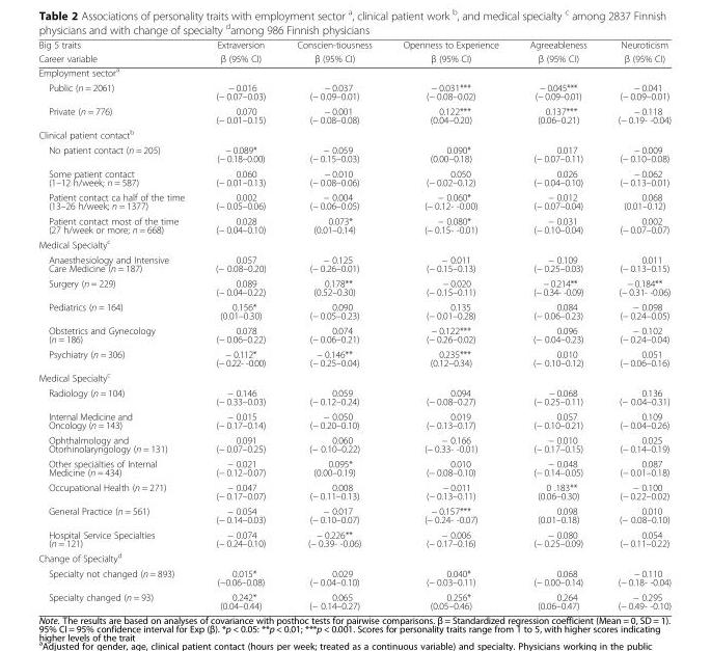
<table><thead><tr><td rowspan="2">Big 5 traits Career variable</td><td rowspan="2">Extraversion β (95% CI)</td><td rowspan="2">Conscien-tiousness β (95% CI)</td><td rowspan="2">Openness to Experience β (95% CI)</td><td rowspan="2">Agreeableness β (95% CI)</td><td rowspan="2">Neuroticism β (95% CI)</td></tr><tr></tr></thead><tbody><tr><td colspan="6">Employment sector<sup>a</sup></td></tr><tr><td>Public (n = 2061)</td><td>− 0.016 (− 0.07–0.03)</td><td>− 0.037 (− 0.09–0.01)</td><td>− 0.031*** (− 0.08–0.02)</td><td>− 0.045*** (− 0.09–0.01)</td><td>− 0.041 (− 0.09–0.01)</td></tr><tr><td>Private (n = 776)</td><td>0.070 (− 0.01–0.15)</td><td>− 0.001 (− 0.08–0.08)</td><td>0.122*** (0.04–0.20)</td><td>0.137*** (0.06–0.21)</td><td>− 0.118 (− 0.19- -0.04)</td></tr><tr><td colspan="6">Clinical patient contact<sup>b</sup></td></tr><tr><td>No patient contact (n = 205)</td><td>− 0.089* (− 0.18–0.00)</td><td>− 0.059 (− 0.15–0.03)</td><td>0.090* (0.00–0.18)</td><td>0.017 (− 0.07–0.11)</td><td>− 0.009 (− 0.10–0.08)</td></tr><tr><td>Some patient contact (1–12 h/week; n = 587)</td><td>0.060 (− 0.01–0.13)</td><td>− 0.010 (− 0.08–0.06)</td><td>0.050 (− 0.02–0.12)</td><td>0.026 (− 0.04–0.10)</td><td>− 0.062 (− 0.13–0.01)</td></tr><tr><td>Patient contact ca half of the time (13–26 h/week; n = 1377)</td><td>0.002 (− 0.05–0.06)</td><td>− 0.004 (− 0.06–0.05)</td><td>− 0.060* (− 0.12- -0.00)</td><td>− 0.012 (− 0.07–0.04)</td><td>0.068 (0.01–0.12)</td></tr><tr><td>Patient contact most of the time (27 h/week or more; n = 668)</td><td>0.028 (− 0.04–0.10)</td><td>0.073* (0.01–0.14)</td><td>− 0.080* (− 0.15- -0.01)</td><td>− 0.031 (− 0.10–0.04)</td><td>0.002 (− 0.07–0.07)</td></tr><tr><td colspan="6">Medical Specialty<sup>c</sup></td></tr><tr><td>Anaesthesiology and Intensive Care Medicine (n = 187)</td><td>0.057 (− 0.08–0.20)</td><td>− 0.125 (− 0.26–0.01)</td><td>− 0.011 (− 0.15–0.13)</td><td>− 0.109 (− 0.25–0.03)</td><td>0.011 (− 0.13–0.15)</td></tr><tr><td>Surgery (n = 229)</td><td>0.089 (− 0.04–0.22)</td><td>0.178** (0.52–0.30)</td><td>− 0.020 (− 0.15–0.11)</td><td>− 0.214** (− 0.34- -0.09)</td><td>− 0.184** (− 0.31- -0.06)</td></tr><tr><td>Pediatrics (n = 164)</td><td>0.156* (0.01–0.30)</td><td>0.090 (− 0.05–0.23)</td><td>0.135 (− 0.01–0.28)</td><td>0.084 (− 0.06–0.23)</td><td>− 0.098 (− 0.24–0.05)</td></tr><tr><td>Obstetrics and Gynecology (n = 186)</td><td>0.078 (− 0.06–0.22)</td><td>0.074 (− 0.06–0.21)</td><td>− 0.122*** (− 0.26–0.02)</td><td>0.096 (− 0.04–0.23)</td><td>− 0.102 (− 0.24–0.04)</td></tr><tr><td>Psychiatry (n = 306)</td><td>− 0.112* (− 0.22- -0.00)</td><td>− 0.146** (− 0.25–0.04)</td><td>0.235*** (0.12–0.34)</td><td>0.010 (− 0.10–0.12)</td><td>0.051 (− 0.06–0.16)</td></tr><tr><td colspan="6">Medical Specialty<sup>c</sup></td></tr><tr><td>Radiology (n = 104)</td><td>− 0.146 (− 0.33–0.03)</td><td>0.059 (− 0.12–0.24)</td><td>0.094 (− 0.08–0.27)</td><td>− 0.068 (− 0.25–0.11)</td><td>0.136 (− 0.04–0.31)</td></tr><tr><td>Internal Medicine and Oncology (n = 143)</td><td>− 0.015 (− 0.17–0.14)</td><td>− 0.050 (− 0.20–0.10)</td><td>0.019 (− 0.13–0.17)</td><td>0.057 (− 0.10–0.21)</td><td>0.109 (− 0.04–0.26)</td></tr><tr><td>Ophthalmology and Otorhinolaryngology (n = 131)</td><td>0.091 (− 0.07–0.25)</td><td>0.060 (− 0.10–0.22)</td><td>− 0.166 (− 0.33- -0.01)</td><td>− 0.010 (− 0.17–0.15)</td><td>0.025 (− 0.14–0.19)</td></tr><tr><td>Other specialties of Internal Medicine (n = 434)</td><td>− 0.021 (− 0.12–0.07)</td><td>0.095* (0.00–0.19)</td><td>0.010 (− 0.08–0.10)</td><td>− 0.048 (− 0.14–0.05)</td><td>0.087 (− 0.01–0.18)</td></tr><tr><td>Occupational Health (n = 271)</td><td>− 0.047 (− 0.17–0.07)</td><td>0.008 (− 0.11–0.13)</td><td>− 0.011 (− 0.13–0.11)</td><td>0 .183** (0.06–0.30)</td><td>− 0.100 (− 0.22–0.02)</td></tr><tr><td>General Practice (n = 561)</td><td>− 0.054 (− 0.14–0.03)</td><td>− 0.017 (− 0.10–0.07)</td><td>− 0.157*** (− 0.24- -0.07)</td><td>0.098 (0.01–0.18)</td><td>0.010 (− 0.08–0.10)</td></tr><tr><td>Hospital Service Specialties (n = 121)</td><td>− 0.074 (− 0.24–0.10)</td><td>− 0.226** (− 0.39- -0.06)</td><td>− 0.006 (− 0.17–0.16)</td><td>− 0.080 (− 0.25–0.09)</td><td>0.054 (− 0.11–0.22)</td></tr><tr><td colspan="6">Change of Specialty<sup>d</sup></td></tr><tr><td>Specialty not changed (n = 893)</td><td>0.015* (−0.06–0.08)</td><td>0.029 (− 0.04–0.10)</td><td>0.040* (− 0.03–0.11)</td><td>0.068 (− 0.00–0.14)</td><td>− 0.110 (− 0.18- -0.04)</td></tr><tr><td>Specialty changed (n = 93)</td><td>0.242* (0.04–0.44)</td><td>0.065 (− 0.14–0.27)</td><td>0.256* (0.05–0.46)</td><td>0.264 (0.06–0.47)</td><td>− 0.295 (− 0.49- -0.10)</td></tr></tbody></table>